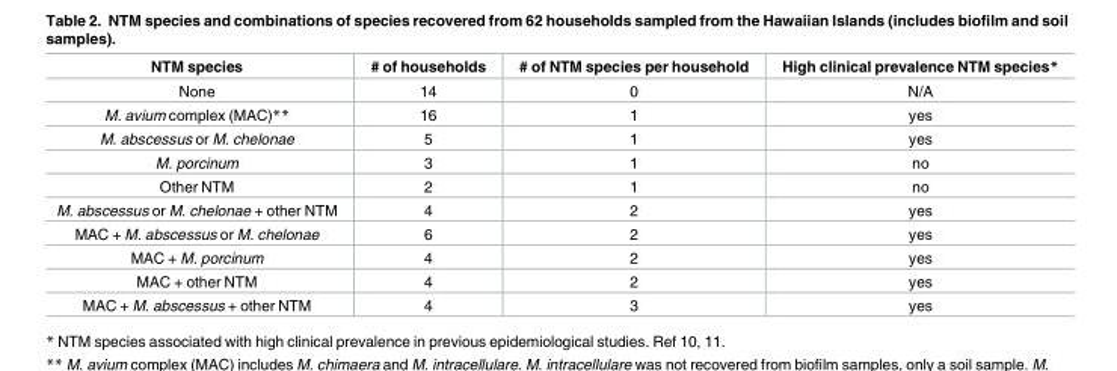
<table><thead><tr><td>NTM species</td><td># of households</td><td># of NTM species per household</td><td>High clinical prevalence NTM species*</td></tr></thead><tbody><tr><td>None</td><td>14</td><td>0</td><td>N/A</td></tr><tr><td>M. avium complex (MAC)**</td><td>16</td><td>1</td><td>yes</td></tr><tr><td>M. abscessus or M. chelonae</td><td>5</td><td>1</td><td>yes</td></tr><tr><td>M. porcinum</td><td>3</td><td>1</td><td>no</td></tr><tr><td>Other NTM</td><td>2</td><td>1</td><td>no</td></tr><tr><td>M. abscessus or M. chelonae + other NTM</td><td>4</td><td>2</td><td>yes</td></tr><tr><td>MAC + M. abscessus or M. chelonae</td><td>6</td><td>2</td><td>yes</td></tr><tr><td>MAC + M. porcinum</td><td>4</td><td>2</td><td>yes</td></tr><tr><td>MAC + other NTM</td><td>4</td><td>2</td><td>yes</td></tr><tr><td>MAC + M. abscessus + other NTM</td><td>4</td><td>3</td><td>yes</td></tr></tbody></table>